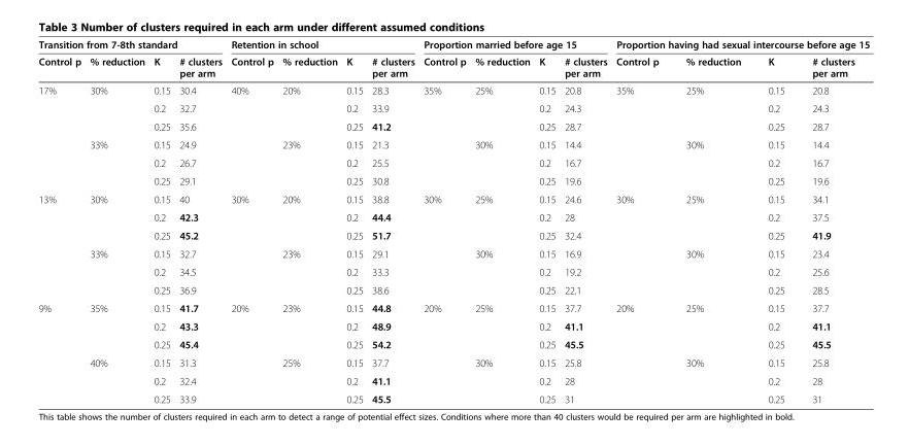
<table><thead><tr><td colspan="4">Transition from 7-8th standard</td><td colspan="4">Retention in school</td><td colspan="4">Proportion married before age 15</td><td colspan="4">Proportion having had sexual intercourse before age 15</td></tr><tr><td>Control p</td><td>% reduction</td><td>K</td><td># clusters per arm</td><td>Control p</td><td>% reduction</td><td>K</td><td># clusters per arm</td><td>Control p</td><td>% reduction</td><td>K</td><td># clusters per arm</td><td>Control p</td><td>% reduction</td><td>K</td><td># clusters per arm</td></tr></thead><tbody><tr><td rowspan="6">17%</td><td>30%</td><td>0.15</td><td>30.4</td><td>40%</td><td>20%</td><td>0.15</td><td>28.3</td><td>35%</td><td>25%</td><td>0.15</td><td>20.8</td><td>35%</td><td>25%</td><td>0.15</td><td>20.8</td></tr><tr><td></td><td>0.2</td><td>32.7</td><td></td><td></td><td>0.2</td><td>33.9</td><td></td><td></td><td>0.2</td><td>24.3</td><td></td><td></td><td>0.2</td><td>24.3</td></tr><tr><td></td><td>0.25</td><td>35.6</td><td></td><td></td><td>0.25</td><td>41.2</td><td></td><td></td><td>0.25</td><td>28.7</td><td></td><td></td><td>0.25</td><td>28.7</td></tr><tr><td>33%</td><td>0.15</td><td>24.9</td><td></td><td>23%</td><td>0.15</td><td>21.3</td><td></td><td>30%</td><td>0.15</td><td>14.4</td><td></td><td>30%</td><td>0.15</td><td>14.4</td></tr><tr><td></td><td>0.2</td><td>26.7</td><td></td><td></td><td>0.2</td><td>25.5</td><td></td><td></td><td>0.2</td><td>16.7</td><td></td><td></td><td>0.2</td><td>16.7</td></tr><tr><td></td><td>0.25</td><td>29.1</td><td></td><td></td><td>0.25</td><td>30.8</td><td></td><td></td><td>0.25</td><td>19.6</td><td></td><td></td><td>0.25</td><td>19.6</td></tr><tr><td rowspan="6">13%</td><td>30%</td><td>0.15</td><td>40</td><td>30%</td><td>20%</td><td>0.15</td><td>38.8</td><td>30%</td><td>25%</td><td>0.15</td><td>24.6</td><td>30%</td><td>25%</td><td>0.15</td><td>34.1</td></tr><tr><td></td><td>0.2</td><td>42.3</td><td></td><td></td><td>0.2</td><td>44.4</td><td></td><td></td><td>0.2</td><td>28</td><td></td><td></td><td>0.2</td><td>37.5</td></tr><tr><td></td><td>0.25</td><td>45.2</td><td></td><td></td><td>0.25</td><td>51.7</td><td></td><td></td><td>0.25</td><td>32.4</td><td></td><td></td><td>0.25</td><td>41.9</td></tr><tr><td>33%</td><td>0.15</td><td>32.7</td><td></td><td>23%</td><td>0.15</td><td>29.1</td><td></td><td>30%</td><td>0.15</td><td>16.9</td><td></td><td>30%</td><td>0.15</td><td>23.4</td></tr><tr><td></td><td>0.2</td><td>34.5</td><td></td><td></td><td>0.2</td><td>33.3</td><td></td><td></td><td>0.2</td><td>19.2</td><td></td><td></td><td>0.2</td><td>25.6</td></tr><tr><td></td><td>0.25</td><td>36.9</td><td></td><td></td><td>0.25</td><td>38.6</td><td></td><td></td><td>0.25</td><td>22.1</td><td></td><td></td><td>0.25</td><td>28.5</td></tr><tr><td rowspan="6">9%</td><td>35%</td><td>0.15</td><td>41.7</td><td>20%</td><td>23%</td><td>0.15</td><td>44.8</td><td>20%</td><td>25%</td><td>0.15</td><td>37.7</td><td>20%</td><td>25%</td><td>0.15</td><td>37.7</td></tr><tr><td></td><td>0.2</td><td>43.3</td><td></td><td></td><td>0.2</td><td>48.9</td><td></td><td></td><td>0.2</td><td>41.1</td><td></td><td></td><td>0.2</td><td>41.1</td></tr><tr><td></td><td>0.25</td><td>45.4</td><td></td><td></td><td>0.25</td><td>54.2</td><td></td><td></td><td>0.25</td><td>45.5</td><td></td><td></td><td>0.25</td><td>45.5</td></tr><tr><td>40%</td><td>0.15</td><td>31.3</td><td></td><td>25%</td><td>0.15</td><td>37.7</td><td></td><td>30%</td><td>0.15</td><td>25.8</td><td></td><td>30%</td><td>0.15</td><td>25.8</td></tr><tr><td></td><td>0.2</td><td>32.4</td><td></td><td></td><td>0.2</td><td>41.1</td><td></td><td></td><td>0.2</td><td>28</td><td></td><td></td><td>0.2</td><td>28</td></tr><tr><td></td><td>0.25</td><td>33.9</td><td></td><td></td><td>0.25</td><td>45.5</td><td></td><td></td><td>0.25</td><td>31</td><td></td><td></td><td>0.25</td><td>31</td></tr></tbody></table>